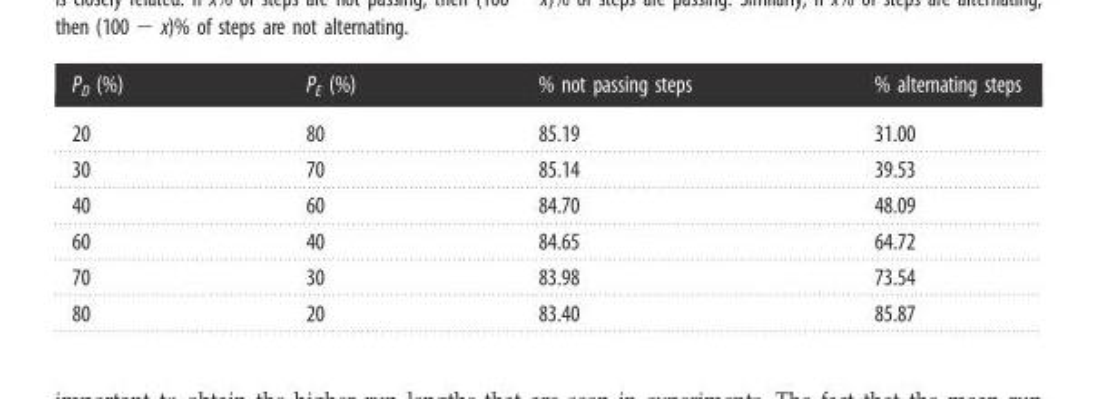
<table><thead><tr><td>P<sub>D</sub> (%)</td><td>P<sub>E</sub> (%)</td><td>% not passing steps</td><td>% alternating steps</td></tr></thead><tbody><tr><td>20</td><td>80</td><td>85.19</td><td>31.00</td></tr><tr><td>30</td><td>70</td><td>85.14</td><td>39.53</td></tr><tr><td>40</td><td>60</td><td>84.70</td><td>48.09</td></tr><tr><td>60</td><td>40</td><td>84.65</td><td>64.72</td></tr><tr><td>70</td><td>30</td><td>83.98</td><td>73.54</td></tr><tr><td>80</td><td>20</td><td>83.40</td><td>85.87</td></tr></tbody></table>